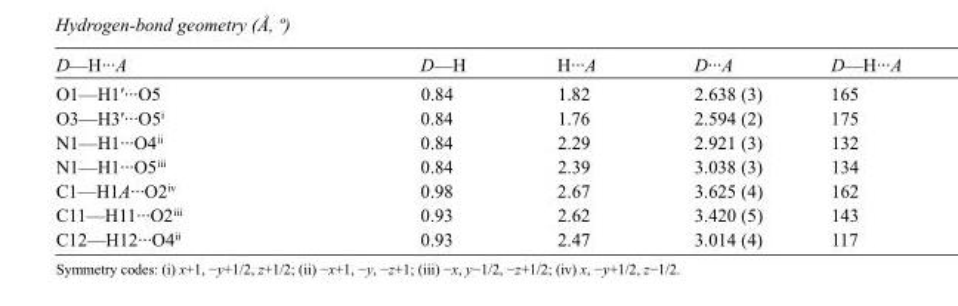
<table><tbody><tr><td>D—H···A</td><td>D—H</td><td>H···A</td><td>D···A</td><td>D—H···A</td></tr><tr><td>O1—H1′···O5</td><td>0.84</td><td>1.82</td><td>2.638 (3)</td><td>165</td></tr><tr><td>O3—H3′···O5<sup>i</sup></td><td>0.84</td><td>1.76</td><td>2.594 (2)</td><td>175</td></tr><tr><td>N1—H1···O4<sup>ii</sup></td><td>0.84</td><td>2.29</td><td>2.921 (3)</td><td>132</td></tr><tr><td>N1—H1···O5<sup>iii</sup></td><td>0.84</td><td>2.39</td><td>3.038 (3)</td><td>134</td></tr><tr><td>C1—H1A···O2<sup>iv</sup></td><td>0.98</td><td>2.67</td><td>3.625 (4)</td><td>162</td></tr><tr><td>C11—H11···O2<sup>iii</sup></td><td>0.93</td><td>2.62</td><td>3.420 (5)</td><td>143</td></tr><tr><td>C12—H12···O4<sup>ii</sup></td><td>0.93</td><td>2.47</td><td>3.014 (4)</td><td>117</td></tr></tbody></table>